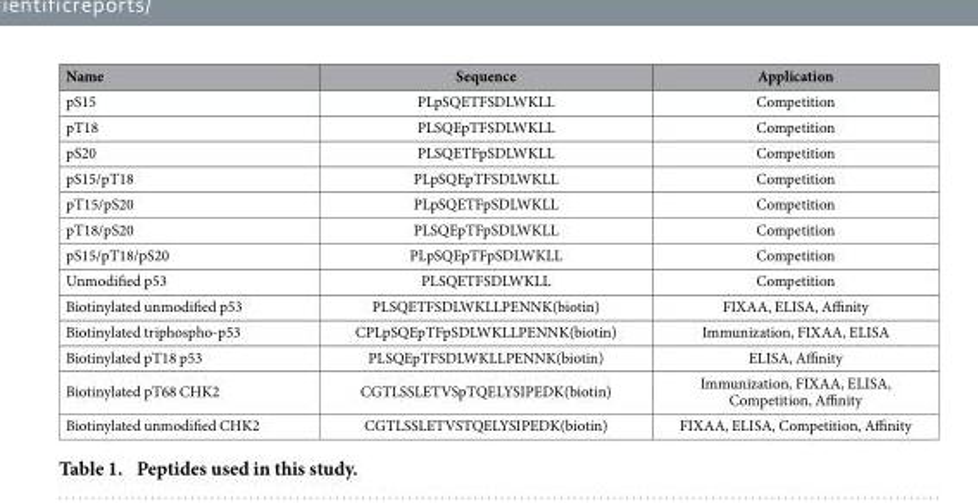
<table><thead><tr><td>Name</td><td>Sequence</td><td>Application</td></tr></thead><tbody><tr><td>pS15</td><td>PLpSQETFSDLWKLL</td><td>Competition</td></tr><tr><td>pT18</td><td>PLSQEpTFSDLWKLL</td><td>Competition</td></tr><tr><td>pS20</td><td>PLSQETFpSDLWKLL</td><td>Competition</td></tr><tr><td>pS15/pT18</td><td>PLpSQEpTFSDLWKLL</td><td>Competition</td></tr><tr><td>pT15/pS20</td><td>PLpSQETFpSDLWKLL</td><td>Competition</td></tr><tr><td>pT18/pS20</td><td>PLSQEpTFpSDLWKLL</td><td>Competition</td></tr><tr><td>pS15/pT18/pS20</td><td>PLpSQEpTFpSDLWKLL</td><td>Competition</td></tr><tr><td>Unmodified p53</td><td>PLSQETFSDLWKLL</td><td>Competition</td></tr><tr><td>Biotinylated unmodified p53</td><td>PLSQETFSDLWKLLPENNK(biotin)</td><td>FIXAA, ELISA, Affinity</td></tr><tr><td>Biotinylated triphospho-p53</td><td>CPLpSQEpTFpSDLWKLLPENNK(biotin)</td><td>Immunization, FIXAA, ELISA</td></tr><tr><td>Biotinylated pT18 p53</td><td>PLSQEpTFSDLWKLLPENNK(biotin)</td><td>ELISA, Affinity</td></tr><tr><td>Biotinylated pT68 CHK2</td><td>CGTLSSLETVSpTQELYSIPEDK(biotin)</td><td>Immunization, FIXAA, ELISA, Competition, Affinity</td></tr><tr><td>Biotinylated unmodified CHK2</td><td>CGTLSSLETVSTQELYSIPEDK(biotin)</td><td>FIXAA, ELISA, Competition, Affinity</td></tr></tbody></table>